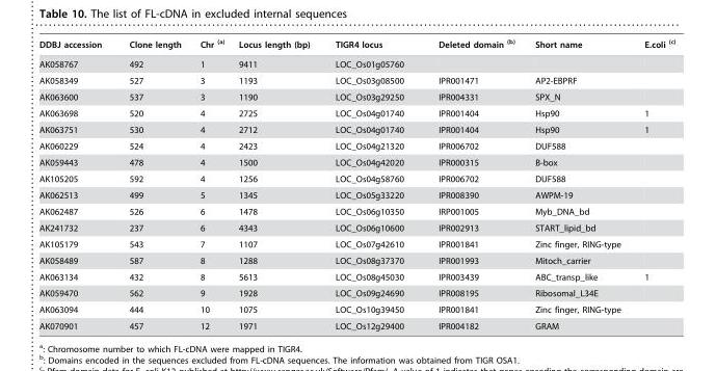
<table><thead><tr><td>DDBJ accession</td><td>Clone length</td><td>Chr (a)</td><td>Locus length (bp)</td><td>TIGR4 locus</td><td>Deleted domain (b)</td><td>Short name</td><td>E.coli (c)</td></tr></thead><tbody><tr><td>AK058767</td><td>492</td><td>1</td><td>9411</td><td>LOC_Os01g05760</td><td></td><td></td><td></td></tr><tr><td>AK058349</td><td>527</td><td>3</td><td>1193</td><td>LOC_Os03g08500</td><td>IPR001471</td><td>AP2-EBPRF</td><td></td></tr><tr><td>AK063600</td><td>537</td><td>3</td><td>1190</td><td>LOC_Os03g29250</td><td>IPR004331</td><td>SPX_N</td><td></td></tr><tr><td>AK063698</td><td>520</td><td>4</td><td>2725</td><td>LOC_Os04g01740</td><td>IPR001404</td><td>Hsp90</td><td>1</td></tr><tr><td>AK063751</td><td>530</td><td>4</td><td>2712</td><td>LOC_Os04g01740</td><td>IPR001404</td><td>Hsp90</td><td>1</td></tr><tr><td>AK060229</td><td>524</td><td>4</td><td>2423</td><td>LOC_Os04g21320</td><td>IPR006702</td><td>DUF588</td><td></td></tr><tr><td>AK059443</td><td>478</td><td>4</td><td>1500</td><td>LOC_Os04g42020</td><td>IPR000315</td><td>B-box</td><td></td></tr><tr><td>AK105205</td><td>592</td><td>4</td><td>1256</td><td>LOC_Os04g58760</td><td>IPR006702</td><td>DUF588</td><td></td></tr><tr><td>AK062513</td><td>499</td><td>5</td><td>1345</td><td>LOC_Os05g33220</td><td>IPR008390</td><td>AWPM-19</td><td></td></tr><tr><td>AK062487</td><td>526</td><td>6</td><td>1478</td><td>LOC_Os06g10350</td><td>IRP001005</td><td>Myb_DNA_bd</td><td></td></tr><tr><td>AK241732</td><td>237</td><td>6</td><td>4343</td><td>LOC_Os06g10600</td><td>IPR002913</td><td>START_lipid_bd</td><td></td></tr><tr><td>AK105179</td><td>543</td><td>7</td><td>1107</td><td>LOC_Os07g42610</td><td>IPR001841</td><td>Zinc finger, RING-type</td><td></td></tr><tr><td>AK058489</td><td>587</td><td>8</td><td>1288</td><td>LOC_Os08g37370</td><td>IPR001993</td><td>Mitoch_carrier</td><td></td></tr><tr><td>AK063134</td><td>432</td><td>8</td><td>5613</td><td>LOC_Os08g45030</td><td>IPR003439</td><td>ABC_transp_like</td><td>1</td></tr><tr><td>AK059470</td><td>562</td><td>9</td><td>1928</td><td>LOC_Os09g24690</td><td>IPR008195</td><td>Ribosomal_L34E</td><td></td></tr><tr><td>AK063094</td><td>444</td><td>10</td><td>1075</td><td>LOC_Os10g39450</td><td>IPR001841</td><td>Zinc finger, RING-type</td><td></td></tr><tr><td>AK070901</td><td>457</td><td>12</td><td>1971</td><td>LOC_Os12g29400</td><td>IPR004182</td><td>GRAM</td><td></td></tr></tbody></table>